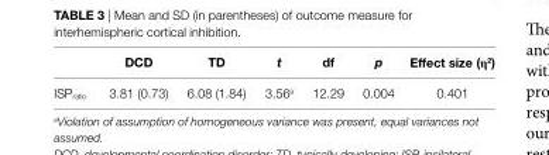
<table><thead><tr><td></td><td>DcD</td><td>TD</td><td>t</td><td>df</td><td>p</td><td>effect size (η<sup>2</sup>)</td></tr></thead><tbody><tr><td>ISP<sub>ratio</sub></td><td>3.81 (0.73)</td><td>6.08 (1.84)</td><td>3.56<sup>a</sup></td><td>12.29</td><td>0.004</td><td>0.401</td></tr></tbody></table>